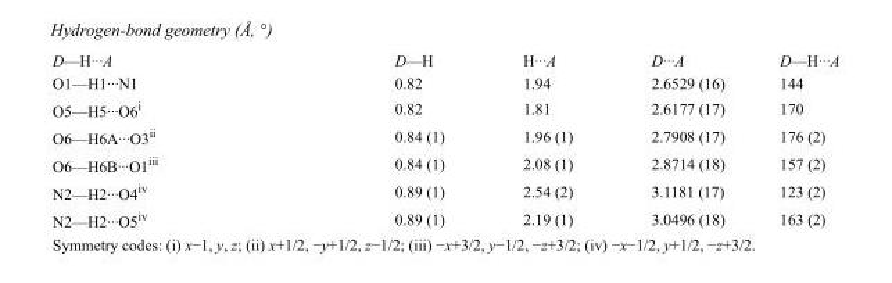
<table><tbody><tr><td>D—H···A</td><td>D—H</td><td>H···A</td><td>D···A</td><td>D—H···A</td></tr><tr><td>O1—H1···N1</td><td>0.82</td><td>1.94</td><td>2.6529 (16)</td><td>144</td></tr><tr><td>O5—H5···O6<sup>i</sup></td><td>0.82</td><td>1.81</td><td>2.6177 (17)</td><td>170</td></tr><tr><td>O6—H6A···O3<sup>ii</sup></td><td>0.84 (1)</td><td>1.96 (1)</td><td>2.7908 (17)</td><td>176 (2)</td></tr><tr><td>O6—H6B···O1<sup>iii</sup></td><td>0.84 (1)</td><td>2.08 (1)</td><td>2.8714 (18)</td><td>157 (2)</td></tr><tr><td>N2—H2···O4<sup>iv</sup></td><td>0.89 (1)</td><td>2.54 (2)</td><td>3.1181 (17)</td><td>123 (2)</td></tr><tr><td>N2—H2···O5<sup>iv</sup></td><td>0.89 (1)</td><td>2.19 (1)</td><td>3.0496 (18)</td><td>163 (2)</td></tr></tbody></table>